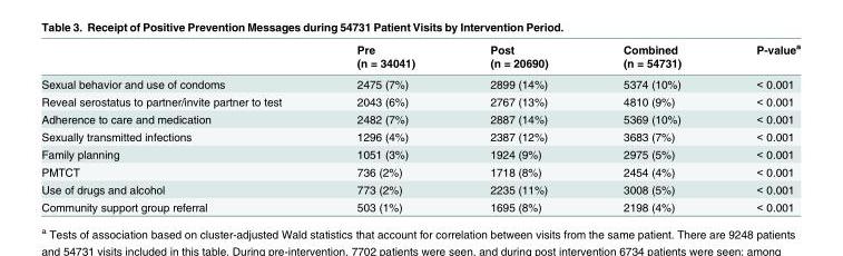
<table><thead><tr><td rowspan="2"></td><td rowspan="2">Pre (n = 34041)</td><td rowspan="2">Post (n = 20690)</td><td rowspan="2">Combined (n = 54731)</td><td rowspan="2">P-value<sup>a</sup></td></tr><tr></tr></thead><tbody><tr><td>Sexual behavior and use of condoms</td><td>2475 (7%)</td><td>2899 (14%)</td><td>5374 (10%)</td><td>&lt; 0.001</td></tr><tr><td>Reveal serostatus to partner/invite partner to test</td><td>2043 (6%)</td><td>2767 (13%)</td><td>4810 (9%)</td><td>&lt; 0.001</td></tr><tr><td>Adherence to care and medication</td><td>2482 (7%)</td><td>2887 (14%)</td><td>5369 (10%)</td><td>&lt; 0.001</td></tr><tr><td>Sexually transmitted infections</td><td>1296 (4%)</td><td>2387 (12%)</td><td>3683 (7%)</td><td>&lt; 0.001</td></tr><tr><td>Family planning</td><td>1051 (3%)</td><td>1924 (9%)</td><td>2975 (5%)</td><td>&lt; 0.001</td></tr><tr><td>PMTCT</td><td>736 (2%)</td><td>1718 (8%)</td><td>2454 (4%)</td><td>&lt; 0.001</td></tr><tr><td>Use of drugs and alcohol</td><td>773 (2%)</td><td>2235 (11%)</td><td>3008 (5%)</td><td>&lt; 0.001</td></tr><tr><td>Community support group referral</td><td>503 (1%)</td><td>1695 (8%)</td><td>2198 (4%)</td><td>&lt; 0.001</td></tr></tbody></table>